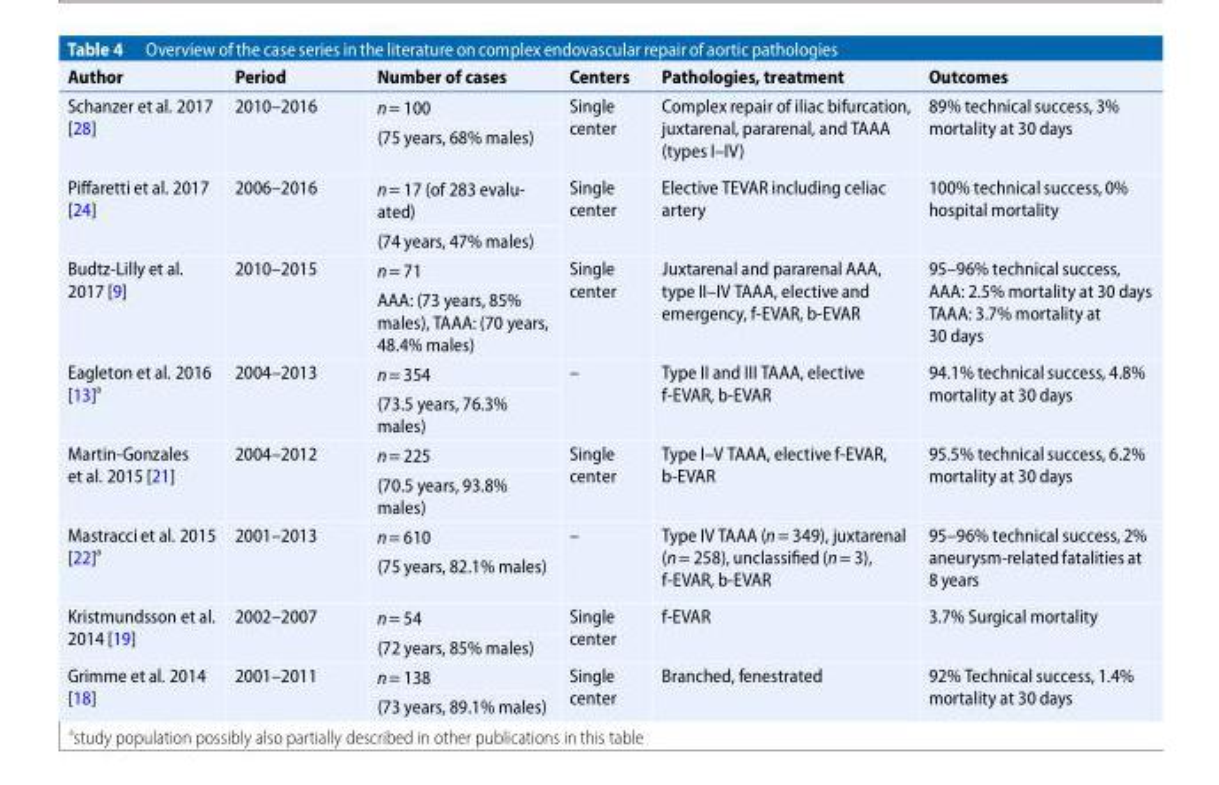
<table><thead><tr><td>Author</td><td>Period</td><td>Number of cases</td><td>Centers</td><td>Pathologies, treatment</td><td>Outcomes</td></tr></thead><tbody><tr><td rowspan="2">Schanzer et al. 2017 [28]</td><td rowspan="2">2010–2016</td><td>n= 100</td><td rowspan="2">Single center</td><td rowspan="2">Complex repair of iliac bifurcation, juxtarenal, pararenal, and TAAA (types I–IV)</td><td rowspan="2">89% technical success, 3% mortality at 30 days</td></tr><tr><td>(75 years, 68% males)</td></tr><tr><td rowspan="2">Piffaretti et al. 2017 [24]</td><td rowspan="2">2006–2016</td><td>n= 17 (of 283 evalu- ated)</td><td rowspan="2">Single center</td><td rowspan="2">Elective TEVAR including celiac artery</td><td rowspan="2">100% technical success, 0% hospital mortality</td></tr><tr><td>(74 years, 47% males)</td></tr><tr><td rowspan="2">Budtz-Lilly et al. 2017 [9]</td><td rowspan="2">2010–2015</td><td>n= 71</td><td rowspan="2">Single center</td><td rowspan="2">Juxtarenal and pararenal AAA, type II–IV TAAA, elective and emergency, f-EVAR, b-EVAR</td><td rowspan="2">95–96% technical success, AAA: 2.5% mortality at 30 days TAAA: 3.7% mortality at 30 days</td></tr><tr><td>AAA: (73 years, 85% males), TAAA: (70 years, 48.4% males)</td></tr><tr><td rowspan="2">Eagleton et al. 2016 [13]<sup>a</sup></td><td rowspan="2">2004–2013</td><td>n= 354</td><td rowspan="2">–</td><td rowspan="2">Type II and III TAAA, elective f-EVAR, b-EVAR</td><td rowspan="2">94.1% technical success, 4.8% mortality at 30 days</td></tr><tr><td>(73.5 years, 76.3% males)</td></tr><tr><td rowspan="2">Martin-Gonzales et al. 2015 [21]</td><td rowspan="2">2004–2012</td><td>n= 225</td><td rowspan="2">Single center</td><td rowspan="2">Type I–V TAAA, elective f-EVAR, b-EVAR</td><td rowspan="2">95.5% technical success, 6.2% mortality at 30 days</td></tr><tr><td>(70.5 years, 93.8% males)</td></tr><tr><td rowspan="2">Mastracci et al. 2015 [22]<sup>a</sup></td><td rowspan="2">2001–2013</td><td>n= 610</td><td rowspan="2">–</td><td rowspan="2">Type IV TAAA (n= 349), juxtarenal (n= 258), unclassified (n= 3), f-EVAR, b-EVAR</td><td rowspan="2">95–96% technical success, 2% aneurysm-relatedfatalitiesat 8 years</td></tr><tr><td>(75 years, 82.1% males)</td></tr><tr><td rowspan="2">Kristmundsson et al. 2014 [19]</td><td rowspan="2">2002–2007</td><td>n= 54</td><td rowspan="2">Single center</td><td rowspan="2">f-EVAR</td><td rowspan="2">3.7% Surgical mortality</td></tr><tr><td>(72 years, 85% males)</td></tr><tr><td rowspan="2">Grimme et al. 2014 [18]</td><td rowspan="2">2001–2011</td><td>n= 138</td><td rowspan="2">Single center</td><td rowspan="2">Branched, fenestrated</td><td rowspan="2">92% Technical success, 1.4% mortality at 30 days</td></tr><tr><td>(73 years, 89.1% males)</td></tr></tbody></table>